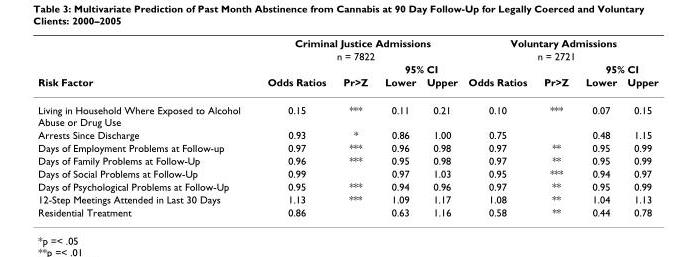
<table><thead><tr><td rowspan="4">Risk Factor</td><td colspan="4">Criminal Justice Admissions</td><td colspan="4">Voluntary Admissions</td></tr><tr><td rowspan="3">Odds Ratios</td><td rowspan="3">n = 7822 Pr&gt;Z</td><td></td><td></td><td rowspan="3">Odds Ratios</td><td rowspan="3">n = 2721 Pr&gt;Z</td><td></td><td></td></tr><tr><td colspan="2">95% CI</td><td colspan="2">95% CI</td></tr><tr><td>Lower</td><td>Upper</td><td>Lower</td><td>Upper</td></tr></thead><tbody><tr><td>Living in Household Where Exposed to Alcohol Abuse or Drug Use</td><td>0.15</td><td>***</td><td>0.11</td><td>0.21</td><td>0.10</td><td>***</td><td>0.07</td><td>0.15</td></tr><tr><td>Arrests Since Discharge</td><td>0.93</td><td>*</td><td>0.86</td><td>1.00</td><td>0.75</td><td></td><td>0.48</td><td>1.15</td></tr><tr><td>Days of Employment Problems at Follow-up</td><td>0.97</td><td>***</td><td>0.96</td><td>0.98</td><td>0.97</td><td>**</td><td>0.95</td><td>0.99</td></tr><tr><td>Days of Family Problems at Follow-Up</td><td>0.96</td><td>***</td><td>0.95</td><td>0.98</td><td>0.97</td><td>**</td><td>0.95</td><td>0.99</td></tr><tr><td>Days of Social Problems at Follow-Up</td><td>0.99</td><td></td><td>0.97</td><td>1.03</td><td>0.95</td><td>***</td><td>0.94</td><td>0.97</td></tr><tr><td>Days of Psychological Problems at Follow-Up</td><td>0.95</td><td>***</td><td>0.94</td><td>0.96</td><td>0.97</td><td>**</td><td>0.95</td><td>0.99</td></tr><tr><td>12-Step Meetings Attended in Last 30 Days</td><td>1.13</td><td>***</td><td>1.09</td><td>1.17</td><td>1.08</td><td>**</td><td>1.04</td><td>1.13</td></tr><tr><td>Residential Treatment</td><td>0.86</td><td></td><td>0.63</td><td>1.16</td><td>0.58</td><td>**</td><td>0.44</td><td>0.78</td></tr></tbody></table>